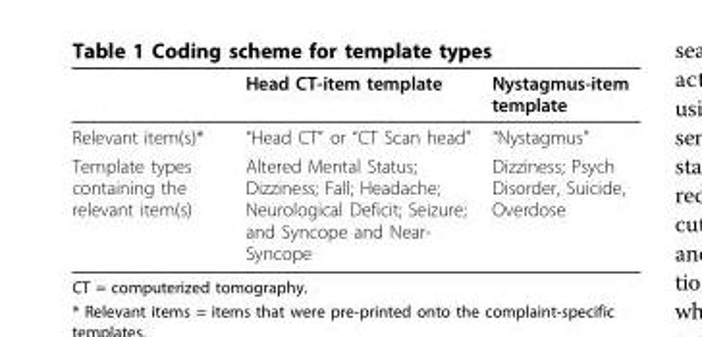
<table><thead><tr><td></td><td>Head CT-item template</td><td>Nystagmus-item template</td></tr></thead><tbody><tr><td>Relevant item(s)*</td><td>“Head CT” or “CT Scan head”</td><td>“Nystagmus”</td></tr><tr><td>Template types containing the relevant item(s)</td><td>Altered Mental Status; Dizziness; Fall; Headache; Neurological Deficit; Seizure; and Syncope and Near- Syncope</td><td>Dizziness; Psych Disorder, Suicide, Overdose</td></tr></tbody></table>